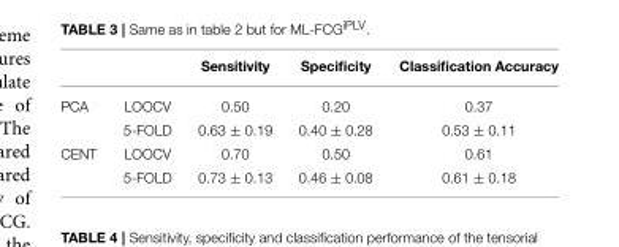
<table><thead><tr><td></td><td></td><td>Sensitivity</td><td>Specificity</td><td>Classification Accuracy</td></tr></thead><tbody><tr><td rowspan="2">PCA</td><td>LOOCV</td><td>0.50</td><td>0.20</td><td>0.37</td></tr><tr><td>5-FOLD</td><td>0.63 ± 0.19</td><td>0.40 ± 0.28</td><td>0.53 ± 0.11</td></tr><tr><td rowspan="2">CENT</td><td>LOOCV</td><td>0.70</td><td>0.50</td><td>0.61</td></tr><tr><td>5-FOLD</td><td>0.73 ± 0.13</td><td>0.46 ± 0.08</td><td>0.61 ± 0.18</td></tr></tbody></table>